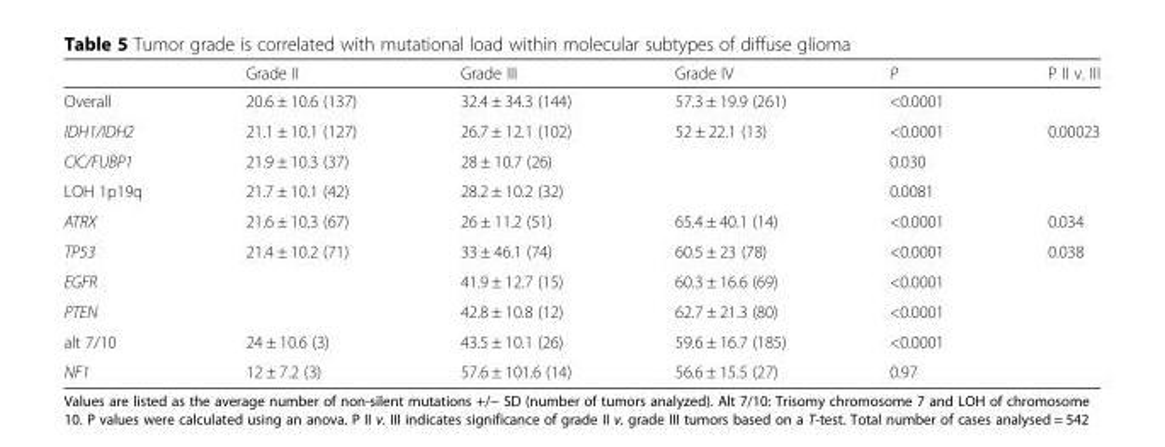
<table><thead><tr><td></td><td>Grade II</td><td>Grade III</td><td>Grade IV</td><td>P</td><td>P II v. III</td></tr></thead><tbody><tr><td>Overall</td><td>20.6 ± 10.6 (137)</td><td>32.4 ± 34.3 (144)</td><td>57.3 ± 19.9 (261)</td><td>&lt;0.0001</td><td></td></tr><tr><td>IDH1/IDH2</td><td>21.1 ± 10.1 (127)</td><td>26.7 ± 12.1 (102)</td><td>52 ± 22.1 (13)</td><td>&lt;0.0001</td><td>0.00023</td></tr><tr><td>CIC/FUBP1</td><td>21.9 ± 10.3 (37)</td><td>28 ± 10.7 (26)</td><td></td><td>0.030</td><td></td></tr><tr><td>LOH 1p19q</td><td>21.7 ± 10.1 (42)</td><td>28.2 ± 10.2 (32)</td><td></td><td>0.0081</td><td></td></tr><tr><td>ATRX</td><td>21.6 ± 10.3 (67)</td><td>26 ± 11.2 (51)</td><td>65.4 ± 40.1 (14)</td><td>&lt;0.0001</td><td>0.034</td></tr><tr><td>TP53</td><td>21.4 ± 10.2 (71)</td><td>33 ± 46.1 (74)</td><td>60.5 ± 23 (78)</td><td>&lt;0.0001</td><td>0.038</td></tr><tr><td>EGFR</td><td></td><td>41.9 ± 12.7 (15)</td><td>60.3 ± 16.6 (69)</td><td>&lt;0.0001</td><td></td></tr><tr><td>PTEN</td><td></td><td>42.8 ± 10.8 (12)</td><td>62.7 ± 21.3 (80)</td><td>&lt;0.0001</td><td></td></tr><tr><td>alt 7/10</td><td>24 ± 10.6 (3)</td><td>43.5 ± 10.1 (26)</td><td>59.6 ± 16.7 (185)</td><td>&lt;0.0001</td><td></td></tr><tr><td>NF1</td><td>12 ± 7.2 (3)</td><td>57.6 ± 101.6 (14)</td><td>56.6 ± 15.5 (27)</td><td>0.97</td><td></td></tr></tbody></table>